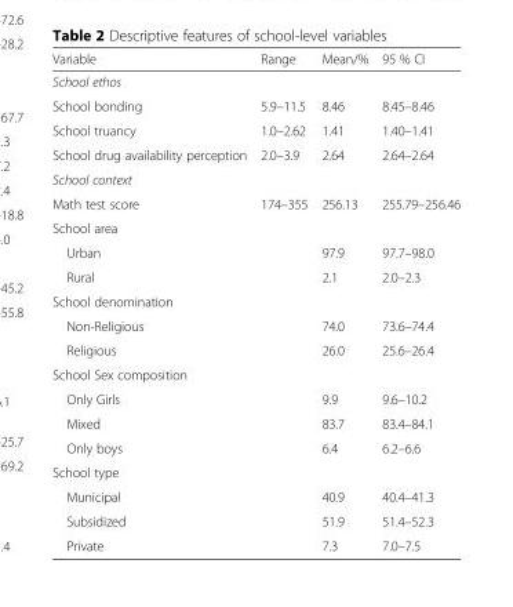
<table><thead><tr><td>Variable</td><td>Range</td><td>Mean/%</td><td>95 % CI</td></tr></thead><tbody><tr><td colspan="4">School ethos</td></tr><tr><td>School bonding</td><td>5.9–11.5</td><td>8.46</td><td>8.45–8.46</td></tr><tr><td>School truancy</td><td>1.0–2.62</td><td>1.41</td><td>1.40–1.41</td></tr><tr><td>School drug availability perception</td><td>2.0–3.9</td><td>2.64</td><td>2.64–2.64</td></tr><tr><td colspan="4">School context</td></tr><tr><td>Math test score</td><td>174–355</td><td>256.13</td><td>255.79–256.46</td></tr><tr><td colspan="4">School area</td></tr><tr><td>Urban</td><td></td><td>97.9</td><td>97.7–98.0</td></tr><tr><td>Rural</td><td></td><td>2.1</td><td>2.0–2.3</td></tr><tr><td colspan="4">School denomination</td></tr><tr><td>Non-Religious</td><td></td><td>74.0</td><td>73.6–74.4</td></tr><tr><td>Religious</td><td></td><td>26.0</td><td>25.6–26.4</td></tr><tr><td colspan="4">School Sex composition</td></tr><tr><td>Only Girls</td><td></td><td>9.9</td><td>9.6–10.2</td></tr><tr><td>Mixed</td><td></td><td>83.7</td><td>83.4–84.1</td></tr><tr><td>Only boys</td><td></td><td>6.4</td><td>6.2–6.6</td></tr><tr><td colspan="4">School type</td></tr><tr><td>Municipal</td><td></td><td>40.9</td><td>40.4–41.3</td></tr><tr><td>Subsidized</td><td></td><td>51.9</td><td>51.4–52.3</td></tr><tr><td>Private</td><td></td><td>7.3</td><td>7.0–7.5</td></tr></tbody></table>